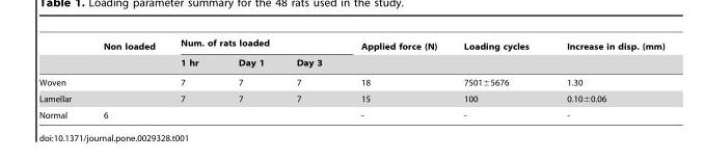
<table><thead><tr><td rowspan="2"></td><td rowspan="2">Non loaded</td><td colspan="3">Num. of rats loaded</td><td rowspan="2">Applied force (N)</td><td rowspan="2">Loading cycles</td><td rowspan="2">Increase in disp. (mm)</td></tr><tr><td>1 hr</td><td>Day 1</td><td>Day 3</td></tr></thead><tbody><tr><td>Woven</td><td></td><td>7</td><td>7</td><td>7</td><td>18</td><td>7501±5676</td><td>1.30</td></tr><tr><td>Lamellar</td><td></td><td>7</td><td>7</td><td>7</td><td>15</td><td>100</td><td>0.10±0.06</td></tr><tr><td>Normal</td><td>6</td><td></td><td></td><td></td><td>-</td><td>-</td><td>-</td></tr></tbody></table>